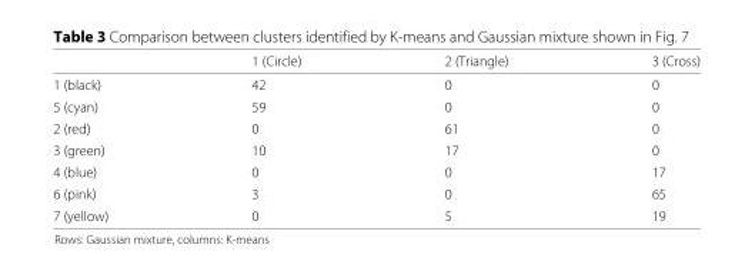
<table><thead><tr><td></td><td>1 (Circle)</td><td>2 (Triangle)</td><td>3 (Cross)</td></tr></thead><tbody><tr><td>1 (black)</td><td>42</td><td>0</td><td>0</td></tr><tr><td>5 (cyan)</td><td>59</td><td>0</td><td>0</td></tr><tr><td>2 (red)</td><td>0</td><td>61</td><td>0</td></tr><tr><td>3 (green)</td><td>10</td><td>17</td><td>0</td></tr><tr><td>4 (blue)</td><td>0</td><td>0</td><td>17</td></tr><tr><td>6 (pink)</td><td>3</td><td>0</td><td>65</td></tr><tr><td>7 (yellow)</td><td>0</td><td>5</td><td>19</td></tr></tbody></table>